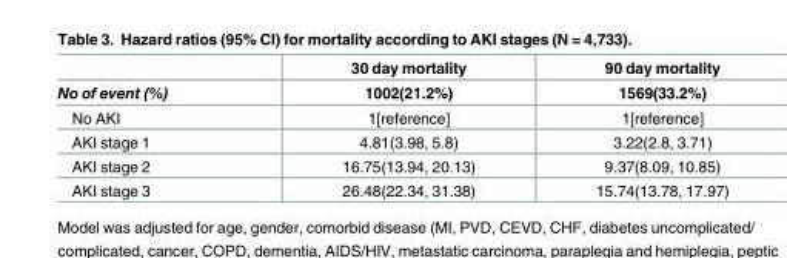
<table><thead><tr><td rowspan="2">No of event (%)</td><td rowspan="2">30 day mortality 1002(21.2%)</td><td rowspan="2">90 day mortality 1569(33.2%)</td></tr><tr></tr></thead><tbody><tr><td>No AKI</td><td>1[reference]</td><td>1[reference]</td></tr><tr><td>AKI stage 1</td><td>4.81(3.98, 5.8)</td><td>3.22(2.8, 3.71)</td></tr><tr><td>AKI stage 2</td><td>16.75(13.94, 20.13)</td><td>9.37(8.09, 10.85)</td></tr><tr><td>AKI stage 3</td><td>26.48(22.34, 31.38)</td><td>15.74(13.78, 17.97)</td></tr></tbody></table>